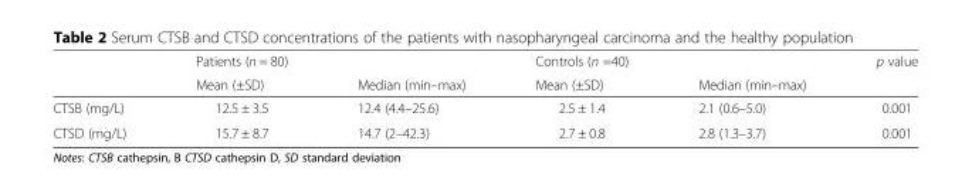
<table><thead><tr><td rowspan="2"></td><td rowspan="2">Patients (n = 80) Mean (±SD)</td><td rowspan="2">Median (min–max)</td><td rowspan="2">Controls (n =40) Mean (±SD)</td><td rowspan="2">Median (min–max)</td><td rowspan="2">p value</td></tr><tr></tr></thead><tbody><tr><td>CTSB (mg/L)</td><td>12.5 ± 3.5</td><td>12.4 (4.4–25.6)</td><td>2.5 ± 1.4</td><td>2.1 (0.6–5.0)</td><td>0.001</td></tr><tr><td>CTSD (mg/L)</td><td>15.7 ± 8.7</td><td>14.7 (2–42.3)</td><td>2.7 ± 0.8</td><td>2.8 (1.3–3.7)</td><td>0.001</td></tr></tbody></table>